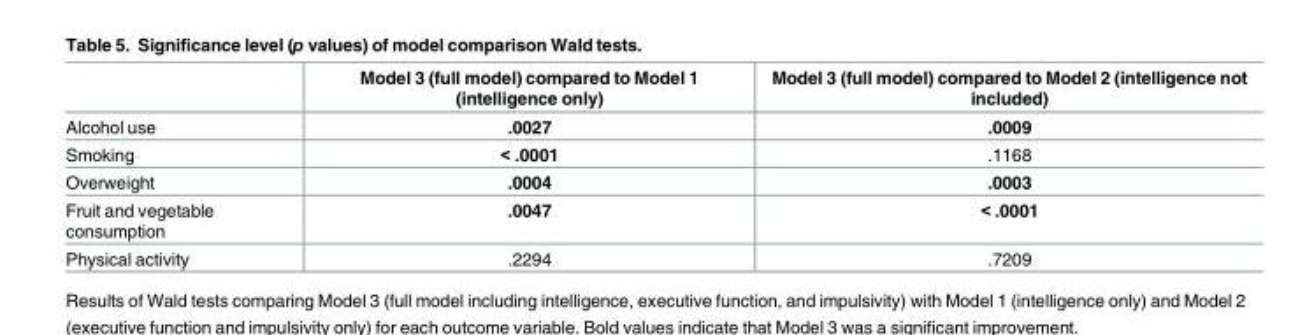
<table><thead><tr><td></td><td>Model 3 (full model) compared to Model 1 (intelligence only)</td><td>Model 3 (full model) compared to Model 2 (intelligence not included)</td></tr></thead><tbody><tr><td>Alcohol use</td><td>.0027</td><td>.0009</td></tr><tr><td>Smoking</td><td>&lt; .0001</td><td>.1168</td></tr><tr><td>Overweight</td><td>.0004</td><td>.0003</td></tr><tr><td>Fruit and vegetable consumption</td><td>.0047</td><td>&lt; .0001</td></tr><tr><td>Physical activity</td><td>.2294</td><td>.7209</td></tr></tbody></table>